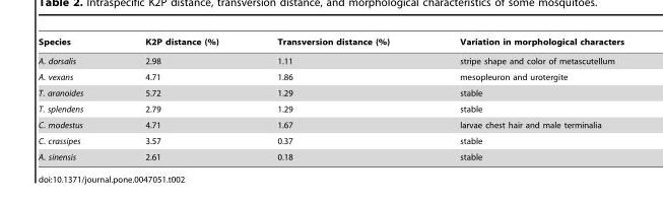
<table><thead><tr><td>Species</td><td>K2P distance (%)</td><td>Transversion distance (%)</td><td>Variation in morphological characters</td></tr></thead><tbody><tr><td>A. dorsalis</td><td>2.98</td><td>1.11</td><td>stripe shape and color of metascutellum</td></tr><tr><td>A. vexans</td><td>4.71</td><td>1.86</td><td>mesopleuron and urotergite</td></tr><tr><td>T. aranoides</td><td>5.72</td><td>1.29</td><td>stable</td></tr><tr><td>T. splendens</td><td>2.79</td><td>1.29</td><td>stable</td></tr><tr><td>C. modestus</td><td>4.71</td><td>1.67</td><td>larvae chest hair and male terminalia</td></tr><tr><td>C. crassipes</td><td>3.57</td><td>0.37</td><td>stable</td></tr><tr><td>A. sinensis</td><td>2.61</td><td>0.18</td><td>stable</td></tr></tbody></table>